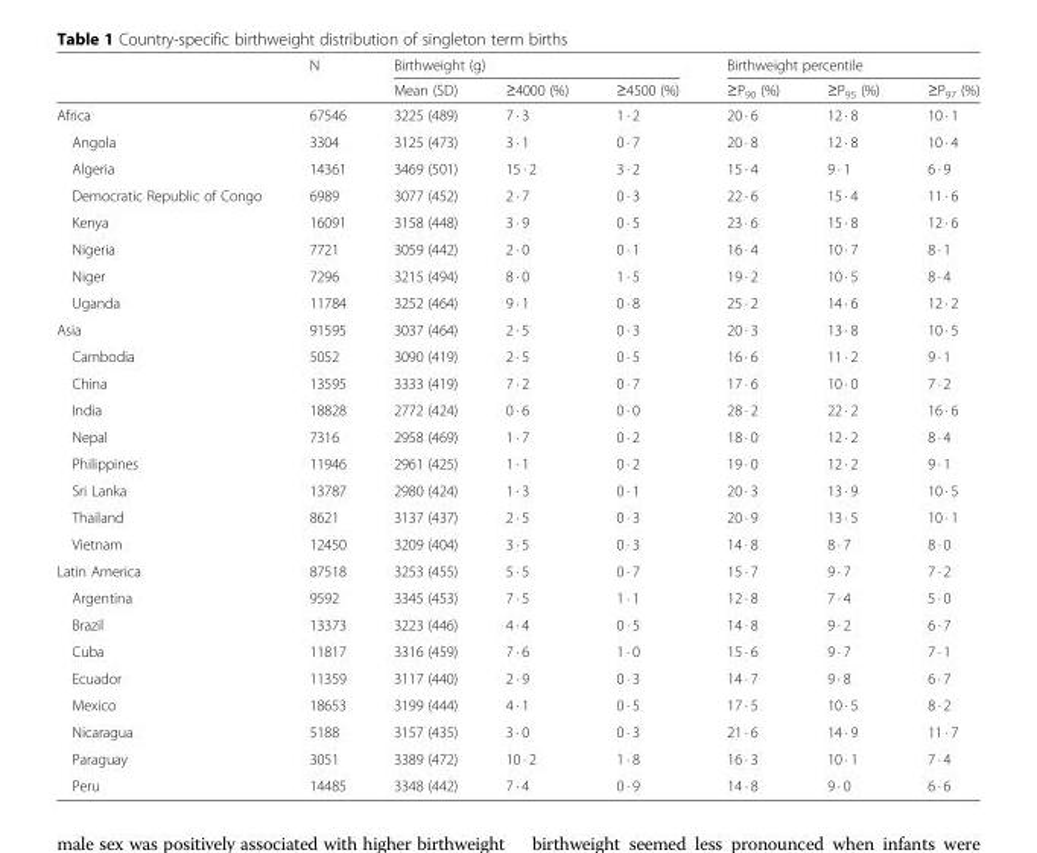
<table><thead><tr><td rowspan="2"></td><td rowspan="2">N</td><td colspan="3">Birthweight (g)</td><td colspan="3">Birthweight percentile</td></tr><tr><td>Mean (SD)</td><td>≥4000 (%)</td><td>≥4500 (%)</td><td>≥P<sub>90</sub> (%)</td><td>≥P<sub>95</sub> (%)</td><td>≥P<sub>97</sub> (%)</td></tr></thead><tbody><tr><td>Africa</td><td>67546</td><td>3225 (489)</td><td>7 · 3</td><td>1 · 2</td><td>20 · 6</td><td>12 · 8</td><td>10 · 1</td></tr><tr><td>Angola</td><td>3304</td><td>3125 (473)</td><td>3 · 1</td><td>0 · 7</td><td>20 · 8</td><td>12 · 8</td><td>10 · 4</td></tr><tr><td>Algeria</td><td>14361</td><td>3469 (501)</td><td>15 · 2</td><td>3 · 2</td><td>15 · 4</td><td>9 · 1</td><td>6 · 9</td></tr><tr><td>Democratic Republic of Congo</td><td>6989</td><td>3077 (452)</td><td>2 · 7</td><td>0 · 3</td><td>22 · 6</td><td>15 · 4</td><td>11 · 6</td></tr><tr><td>Kenya</td><td>16091</td><td>3158 (448)</td><td>3 · 9</td><td>0 · 5</td><td>23 · 6</td><td>15 · 8</td><td>12 · 6</td></tr><tr><td>Nigeria</td><td>7721</td><td>3059 (442)</td><td>2 · 0</td><td>0 · 1</td><td>16 · 4</td><td>10 · 7</td><td>8 · 1</td></tr><tr><td>Niger</td><td>7296</td><td>3215 (494)</td><td>8 · 0</td><td>1 · 5</td><td>19 · 2</td><td>10 · 5</td><td>8 · 4</td></tr><tr><td>Uganda</td><td>11784</td><td>3252 (464)</td><td>9 · 1</td><td>0 · 8</td><td>25 · 2</td><td>14 · 6</td><td>12 · 2</td></tr><tr><td>Asia</td><td>91595</td><td>3037 (464)</td><td>2 · 5</td><td>0 · 3</td><td>20 · 3</td><td>13 · 8</td><td>10 · 5</td></tr><tr><td>Cambodia</td><td>5052</td><td>3090 (419)</td><td>2 · 5</td><td>0 · 5</td><td>16 · 6</td><td>11 · 2</td><td>9 · 1</td></tr><tr><td>China</td><td>13595</td><td>3333 (419)</td><td>7 · 2</td><td>0 · 7</td><td>17 · 6</td><td>10 · 0</td><td>7 · 2</td></tr><tr><td>India</td><td>18828</td><td>2772 (424)</td><td>0 · 6</td><td>0 · 0</td><td>28 · 2</td><td>22 · 2</td><td>16 · 6</td></tr><tr><td>Nepal</td><td>7316</td><td>2958 (469)</td><td>1 · 7</td><td>0 · 2</td><td>18 · 0</td><td>12 · 2</td><td>8 · 4</td></tr><tr><td>Philippines</td><td>11946</td><td>2961 (425)</td><td>1 · 1</td><td>0 · 2</td><td>19 · 0</td><td>12 · 2</td><td>9 · 1</td></tr><tr><td>Sri Lanka</td><td>13787</td><td>2980 (424)</td><td>1 · 3</td><td>0 · 1</td><td>20 · 3</td><td>13 · 9</td><td>10 · 5</td></tr><tr><td>Thailand</td><td>8621</td><td>3137 (437)</td><td>2 · 5</td><td>0 · 3</td><td>20 · 9</td><td>13 · 5</td><td>10 · 1</td></tr><tr><td>Vietnam</td><td>12450</td><td>3209 (404)</td><td>3 · 5</td><td>0 · 3</td><td>14 · 8</td><td>8 · 7</td><td>8 · 0</td></tr><tr><td>Latin America</td><td>87518</td><td>3253 (455)</td><td>5 · 5</td><td>0 · 7</td><td>15 · 7</td><td>9 · 7</td><td>7 · 2</td></tr><tr><td>Argentina</td><td>9592</td><td>3345 (453)</td><td>7 · 5</td><td>1 · 1</td><td>12 · 8</td><td>7 · 4</td><td>5 · 0</td></tr><tr><td>Brazil</td><td>13373</td><td>3223 (446)</td><td>4 · 4</td><td>0 · 5</td><td>14 · 8</td><td>9 · 2</td><td>6 · 7</td></tr><tr><td>Cuba</td><td>11817</td><td>3316 (459)</td><td>7 · 6</td><td>1 · 0</td><td>15 · 6</td><td>9 · 7</td><td>7 · 1</td></tr><tr><td>Ecuador</td><td>11359</td><td>3117 (440)</td><td>2 · 9</td><td>0 · 3</td><td>14 · 7</td><td>9 · 8</td><td>6 · 7</td></tr><tr><td>Mexico</td><td>18653</td><td>3199 (444)</td><td>4 · 1</td><td>0 · 5</td><td>17 · 5</td><td>10 · 5</td><td>8 · 2</td></tr><tr><td>Nicaragua</td><td>5188</td><td>3157 (435)</td><td>3 · 0</td><td>0 · 3</td><td>21 · 6</td><td>14 · 9</td><td>11 · 7</td></tr><tr><td>Paraguay</td><td>3051</td><td>3389 (472)</td><td>10 · 2</td><td>1 · 8</td><td>16 · 3</td><td>10 · 1</td><td>7 · 4</td></tr><tr><td>Peru</td><td>14485</td><td>3348 (442)</td><td>7 · 4</td><td>0 · 9</td><td>14 · 8</td><td>9 · 0</td><td>6 · 6</td></tr></tbody></table>